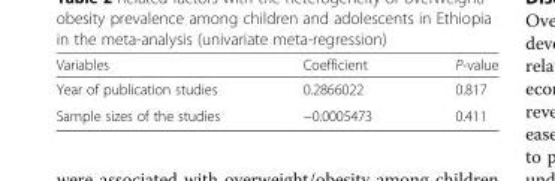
<table><thead><tr><td>Variables</td><td>Coefficient</td><td>P-value</td></tr></thead><tbody><tr><td>Year of publication studies</td><td>0.2866022</td><td>0.817</td></tr><tr><td>Sample sizes of the studies</td><td>−0.0005473</td><td>0.411</td></tr></tbody></table>